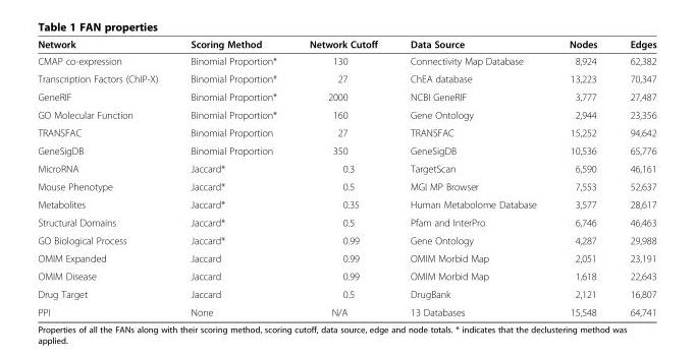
<table><thead><tr><td>Network</td><td>Scoring Method</td><td>Network Cutoff</td><td>Data Source</td><td>Nodes</td><td>Edges</td></tr></thead><tbody><tr><td>CMAP co-expression</td><td>Binomial Proportion*</td><td>130</td><td>Connectivity Map Database</td><td>8,924</td><td>62,382</td></tr><tr><td>Transcription Factors (ChIP-X)</td><td>Binomial Proportion*</td><td>27</td><td>ChEA database</td><td>13,223</td><td>70,347</td></tr><tr><td>GeneRIF</td><td>Binomial Proportion*</td><td>2000</td><td>NCBI GeneRIF</td><td>3,777</td><td>27,487</td></tr><tr><td>GO Molecular Function</td><td>Binomial Proportion*</td><td>160</td><td>Gene Ontology</td><td>2,944</td><td>23,356</td></tr><tr><td>TRANSFAC</td><td>Binomial Proportion</td><td>27</td><td>TRANSFAC</td><td>15,252</td><td>94,642</td></tr><tr><td>GeneSigDB</td><td>Binomial Proportion</td><td>350</td><td>GeneSigDB</td><td>10,536</td><td>65,776</td></tr><tr><td>MicroRNA</td><td>Jaccard*</td><td>0.3</td><td>TargetScan</td><td>6,590</td><td>46,161</td></tr><tr><td>Mouse Phenotype</td><td>Jaccard*</td><td>0.5</td><td>MGI MP Browser</td><td>7,553</td><td>52,637</td></tr><tr><td>Metabolites</td><td>Jaccard*</td><td>0.35</td><td>Human Metabolome Database</td><td>3,577</td><td>28,617</td></tr><tr><td>Structural Domains</td><td>Jaccard*</td><td>0.5</td><td>Pfam and InterPro</td><td>6,746</td><td>46,463</td></tr><tr><td>GO Biological Process</td><td>Jaccard*</td><td>0.99</td><td>Gene Ontology</td><td>4,287</td><td>29,988</td></tr><tr><td>OMIM Expanded</td><td>Jaccard</td><td>0.99</td><td>OMIM Morbid Map</td><td>2,051</td><td>23,191</td></tr><tr><td>OMIM Disease</td><td>Jaccard</td><td>0.99</td><td>OMIM Morbid Map</td><td>1,618</td><td>22,643</td></tr><tr><td>Drug Target</td><td>Jaccard</td><td>0.5</td><td>DrugBank</td><td>2,121</td><td>16,807</td></tr><tr><td>PPI</td><td>None</td><td>N/A</td><td>13 Databases</td><td>15,548</td><td>64,741</td></tr></tbody></table>